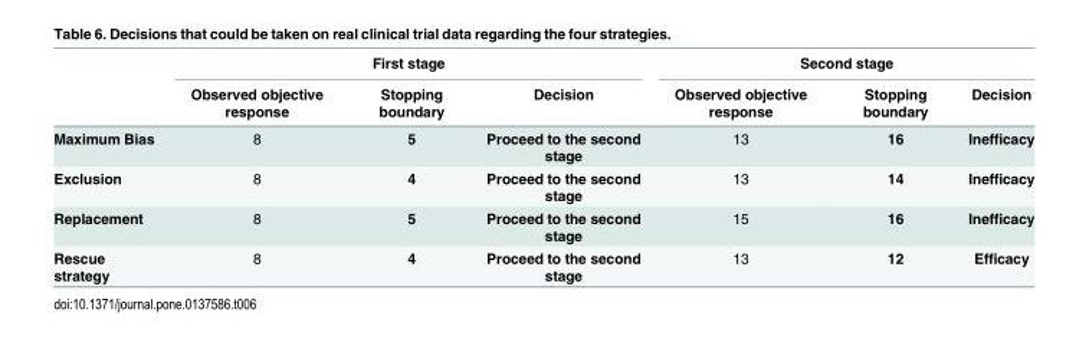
<table><thead><tr><td rowspan="2"></td><td colspan="3">First stage</td><td colspan="3">Second stage</td></tr><tr><td>Observed objective response</td><td>Stopping boundary</td><td>Decision</td><td>Observed objective response</td><td>Stopping boundary</td><td>Decision</td></tr></thead><tbody><tr><td>Maximum Bias</td><td>8</td><td>5</td><td>Proceed to the second stage</td><td>13</td><td>16</td><td>Inefficacy</td></tr><tr><td>Exclusion</td><td>8</td><td>4</td><td>Proceed to the second stage</td><td>13</td><td>14</td><td>Inefficacy</td></tr><tr><td>Replacement</td><td>8</td><td>5</td><td>Proceed to the second stage</td><td>15</td><td>16</td><td>Inefficacy</td></tr><tr><td>Rescue strategy</td><td>8</td><td>4</td><td>Proceed to the second stage</td><td>13</td><td>12</td><td>Efficacy</td></tr></tbody></table>